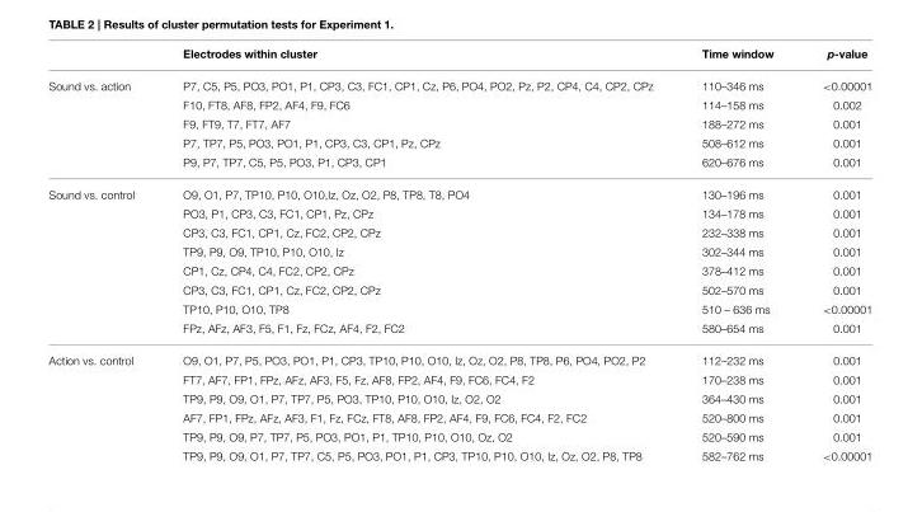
<table><thead><tr><td></td><td>Electrodes within cluster</td><td>Time window</td><td>p-value</td></tr></thead><tbody><tr><td rowspan="5">Sound vs. action</td><td>P7, C5, P5, PO3, PO1, P1, CP3, C3, FC1, CP1, Cz, P6, PO4, PO2, Pz, P2, CP4, C4, CP2, CPz</td><td>110–346 ms</td><td>&lt;0.00001</td></tr><tr><td>F10, FT8, AF8, FP2, AF4, F9, FC6</td><td>114–158 ms</td><td>0.002</td></tr><tr><td>F9, FT9, T7, FT7, AF7</td><td>188–272 ms</td><td>0.001</td></tr><tr><td>P7, TP7, P5, PO3, PO1, P1, CP3, C3, CP1, Pz, CPz</td><td>508–612 ms</td><td>0.001</td></tr><tr><td>P9, P7, TP7, C5, P5, PO3, P1, CP3, CP1</td><td>620–676 ms</td><td>0.001</td></tr><tr><td rowspan="8">Sound vs. control</td><td>O9, O1, P7, TP10, P10, O10,Iz, Oz, O2, P8, TP8, T8, PO4</td><td>130–196 ms</td><td>0.001</td></tr><tr><td>PO3, P1, CP3, C3, FC1, CP1, Pz, CPz</td><td>134–178 ms</td><td>0.001</td></tr><tr><td>CP3, C3, FC1, CP1, Cz, FC2, CP2, CPz</td><td>232–338 ms</td><td>0.001</td></tr><tr><td>TP9, P9, O9, TP10, P10, O10, Iz</td><td>302–344 ms</td><td>0.001</td></tr><tr><td>CP1, Cz, CP4, C4, FC2, CP2, CPz</td><td>378–412 ms</td><td>0.001</td></tr><tr><td>CP3, C3, FC1, CP1, Cz, FC2, CP2, CPz</td><td>502–570 ms</td><td>0.001</td></tr><tr><td>TP10, P10, O10, TP8</td><td>510 – 636 ms</td><td>&lt;0.00001</td></tr><tr><td>FPz, AFz, AF3, F5, F1, Fz, FCz, AF4, F2, FC2</td><td>580–654 ms</td><td>0.001</td></tr><tr><td rowspan="6">Action vs. control</td><td>O9, O1, P7, P5, PO3, PO1, P1, CP3, TP10, P10, O10, Iz, Oz, O2, P8, TP8, P6, PO4, PO2, P2</td><td>112–232 ms</td><td>0.001</td></tr><tr><td>FT7, AF7, FP1, FPz, AFz, AF3, F5, Fz, AF8, FP2, AF4, F9, FC6, FC4, F2</td><td>170–238 ms</td><td>0.001</td></tr><tr><td>TP9, P9, O9, O1, P7, TP7, P5, PO3, TP10, P10, O10, Iz, O2, O2</td><td>364–430 ms</td><td>0.001</td></tr><tr><td>AF7, FP1, FPz, AFz, AF3, F1, Fz, FCz, FT8, AF8, FP2, AF4, F9, FC6, FC4, F2, FC2</td><td>520–800 ms</td><td>0.001</td></tr><tr><td>TP9, P9, O9, P7, TP7, P5, PO3, PO1, P1, TP10, P10, O10, Oz, O2</td><td>520–590 ms</td><td>0.001</td></tr><tr><td>TP9, P9, O9, O1, P7, TP7, C5, P5, PO3, PO1, P1, CP3, TP10, P10, O10, Iz, Oz, O2, P8, TP8</td><td>582–762 ms</td><td>&lt;0.00001</td></tr></tbody></table>